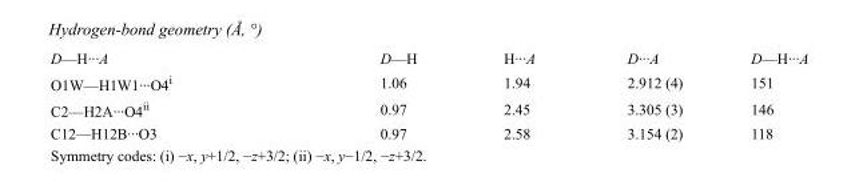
<table><tbody><tr><td>D—H···A</td><td>D—H</td><td>H···A</td><td>D···A</td><td>D—H···A</td></tr><tr><td>O1W—H1W1···O4<sup>i</sup></td><td>1.06</td><td>1.94</td><td>2.912 (4)</td><td>151</td></tr><tr><td>C2—H2A···O4<sup>ii</sup></td><td>0.97</td><td>2.45</td><td>3.305 (3)</td><td>146</td></tr><tr><td>C12—H12B···O3</td><td>0.97</td><td>2.58</td><td>3.154 (2)</td><td>118</td></tr></tbody></table>